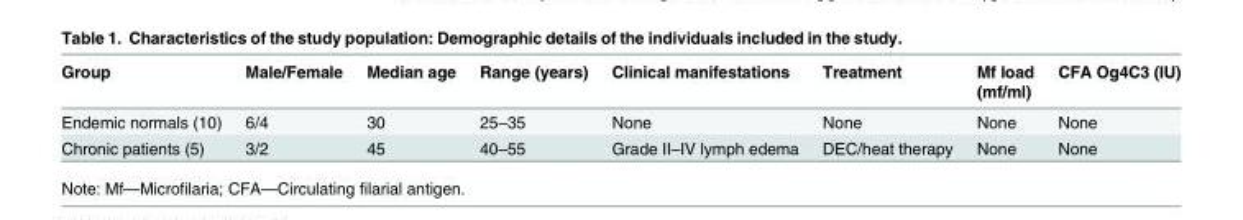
<table><thead><tr><td>Group</td><td>Male/Female</td><td>Median age</td><td>Range (years)</td><td>Clinical manifestations</td><td>Treatment</td><td>Mf load (mf/ml)</td><td>CFA Og4C3 (IU)</td></tr></thead><tbody><tr><td>Endemic normals (10)</td><td>6/4</td><td>30</td><td>25–35</td><td>None</td><td>None</td><td>None</td><td>None</td></tr><tr><td>Chronic patients (5)</td><td>3/2</td><td>45</td><td>40–55</td><td>Grade II–IV lymph edema</td><td>DEC/heat therapy</td><td>None</td><td>None</td></tr></tbody></table>